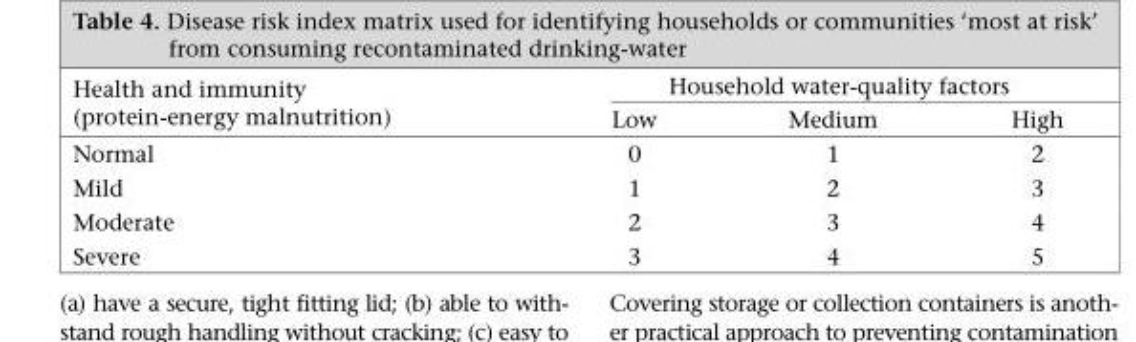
<table><thead><tr><td rowspan="2">Health and immunity (protein-energy malnutrition)</td><td colspan="3">Household water-quality factors</td></tr><tr><td>Low</td><td>Medium</td><td>High</td></tr></thead><tbody><tr><td>Normal</td><td>0</td><td>1</td><td>2</td></tr><tr><td>Mild</td><td>1</td><td>2</td><td>3</td></tr><tr><td>Moderate</td><td>2</td><td>3</td><td>4</td></tr><tr><td>Severe</td><td>3</td><td>4</td><td>5</td></tr></tbody></table>